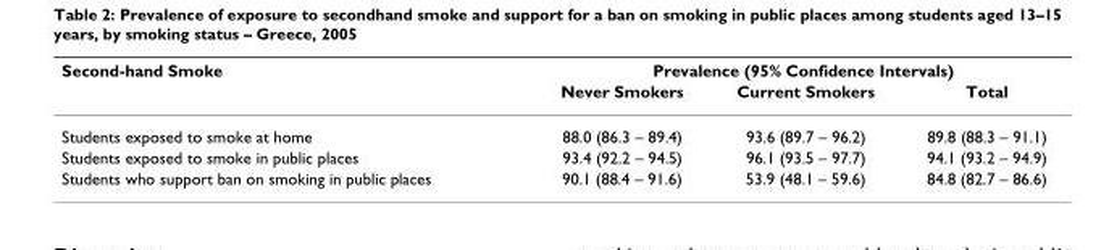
<table><thead><tr><td rowspan="2">Second-hand Smoke</td><td colspan="3">Prevalence (95% Confidence Intervals)</td></tr><tr><td>Never Smokers</td><td>Current Smokers</td><td>Total</td></tr></thead><tbody><tr><td>Students exposed to smoke at home</td><td>88.0 (86.3 – 89.4)</td><td>93.6 (89.7 – 96.2)</td><td>89.8 (88.3 – 91.1)</td></tr><tr><td>Students exposed to smoke in public places</td><td>93.4 (92.2 – 94.5)</td><td>96.1 (93.5 – 97.7)</td><td>94.1 (93.2 – 94.9)</td></tr><tr><td>Students who support ban on smoking in public places</td><td>90.1 (88.4 – 91.6)</td><td>53.9 (48.1 – 59.6)</td><td>84.8 (82.7 – 86.6)</td></tr></tbody></table>